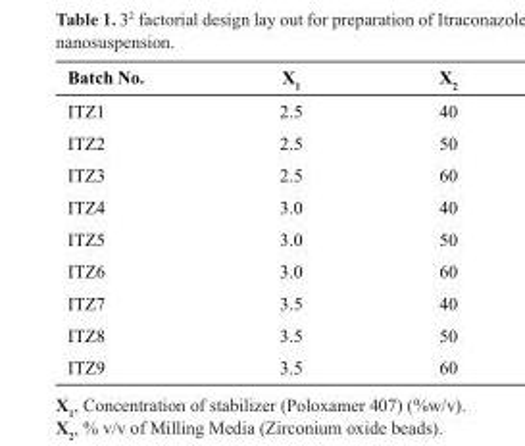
<table><thead><tr><td>Batch No.</td><td>X<sub>1</sub></td><td>X<sub>2</sub></td></tr></thead><tbody><tr><td>ITZ1</td><td>2.5</td><td>40</td></tr><tr><td>ITZ2</td><td>2.5</td><td>50</td></tr><tr><td>ITZ3</td><td>2.5</td><td>60</td></tr><tr><td>ITZ4</td><td>3.0</td><td>40</td></tr><tr><td>ITZ5</td><td>3.0</td><td>50</td></tr><tr><td>ITZ6</td><td>3.0</td><td>60</td></tr><tr><td>ITZ7</td><td>3.5</td><td>40</td></tr><tr><td>ITZ8</td><td>3.5</td><td>50</td></tr><tr><td>ITZ9</td><td>3.5</td><td>60</td></tr></tbody></table>